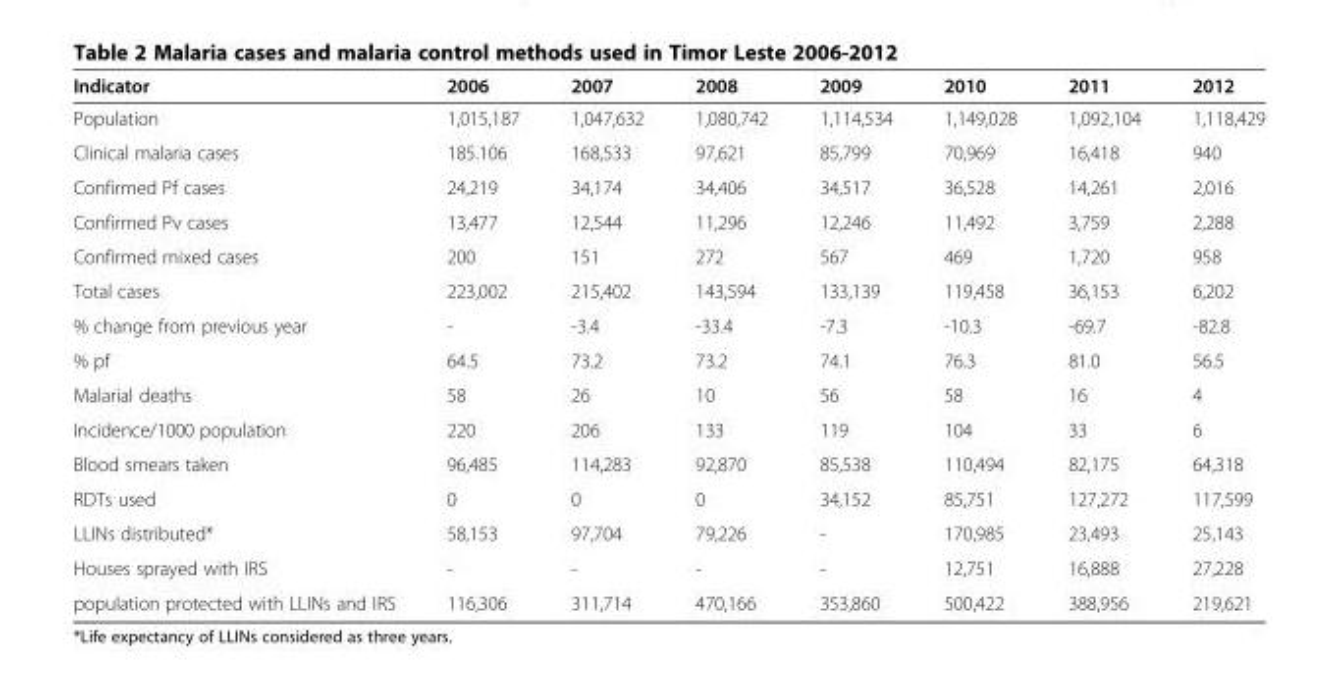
<table><thead><tr><td>Indicator</td><td>2006</td><td>2007</td><td>2008</td><td>2009</td><td>2010</td><td>2011</td><td>2012</td></tr></thead><tbody><tr><td>Population</td><td>1,015,187</td><td>1,047,632</td><td>1,080,742</td><td>1,114,534</td><td>1,149,028</td><td>1,092,104</td><td>1,118,429</td></tr><tr><td>Clinical malaria cases</td><td>185.106</td><td>168,533</td><td>97,621</td><td>85,799</td><td>70,969</td><td>16,418</td><td>940</td></tr><tr><td>Confirmed Pf cases</td><td>24,219</td><td>34,174</td><td>34,406</td><td>34,517</td><td>36,528</td><td>14,261</td><td>2,016</td></tr><tr><td>Confirmed Pv cases</td><td>13,477</td><td>12,544</td><td>11,296</td><td>12,246</td><td>11,492</td><td>3,759</td><td>2,288</td></tr><tr><td>Confirmed mixed cases</td><td>200</td><td>151</td><td>272</td><td>567</td><td>469</td><td>1,720</td><td>958</td></tr><tr><td>Total cases</td><td>223,002</td><td>215,402</td><td>143,594</td><td>133,139</td><td>119,458</td><td>36,153</td><td>6,202</td></tr><tr><td>% change from previous year</td><td>-</td><td>-3.4</td><td>-33.4</td><td>-7.3</td><td>-10.3</td><td>-69.7</td><td>-82.8</td></tr><tr><td>% pf</td><td>64.5</td><td>73.2</td><td>73.2</td><td>74.1</td><td>76.3</td><td>81.0</td><td>56.5</td></tr><tr><td>Malarial deaths</td><td>58</td><td>26</td><td>10</td><td>56</td><td>58</td><td>16</td><td>4</td></tr><tr><td>Incidence/1000 population</td><td>220</td><td>206</td><td>133</td><td>119</td><td>104</td><td>33</td><td>6</td></tr><tr><td>Blood smears taken</td><td>96,485</td><td>114,283</td><td>92,870</td><td>85,538</td><td>110,494</td><td>82,175</td><td>64,318</td></tr><tr><td>RDTs used</td><td>0</td><td>0</td><td>0</td><td>34,152</td><td>85,751</td><td>127,272</td><td>117,599</td></tr><tr><td>LLINs distributed*</td><td>58,153</td><td>97,704</td><td>79,226</td><td>-</td><td>170,985</td><td>23,493</td><td>25,143</td></tr><tr><td>Houses sprayed with IRS</td><td>-</td><td>-</td><td>-</td><td>-</td><td>12,751</td><td>16,888</td><td>27,228</td></tr><tr><td>population protected with LLINs and IRS</td><td>116,306</td><td>311,714</td><td>470,166</td><td>353,860</td><td>500,422</td><td>388,956</td><td>219,621</td></tr></tbody></table>